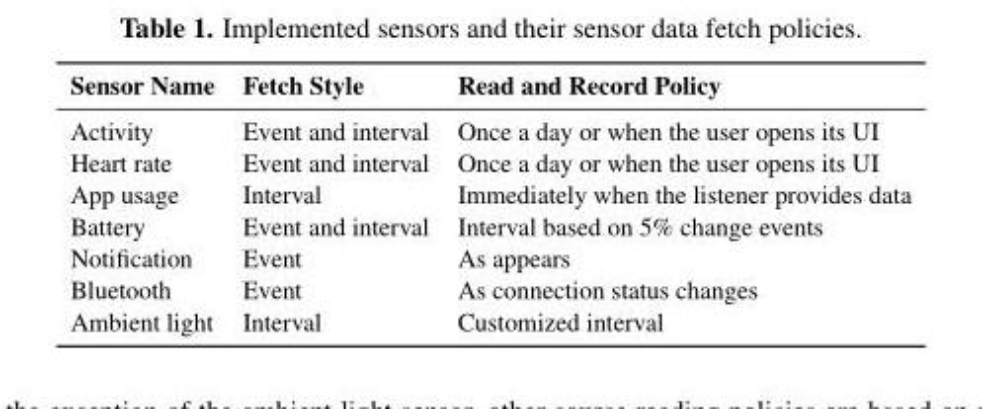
<table><thead><tr><td>Sensor Name</td><td>Fetch Style</td><td>Read and Record Policy</td></tr></thead><tbody><tr><td>Activity</td><td>Event and interval</td><td>Once a day or when the user opens its UI</td></tr><tr><td>Heart rate</td><td>Event and interval</td><td>Once a day or when the user opens its UI</td></tr><tr><td>App usage</td><td>Interval</td><td>Immediately when the listener provides data</td></tr><tr><td>Battery</td><td>Event and interval</td><td>Interval based on 5% change events</td></tr><tr><td>Notification</td><td>Event</td><td>As appears</td></tr><tr><td>Bluetooth</td><td>Event</td><td>As connection status changes</td></tr><tr><td>Ambient light</td><td>Interval</td><td>Customized interval</td></tr></tbody></table>